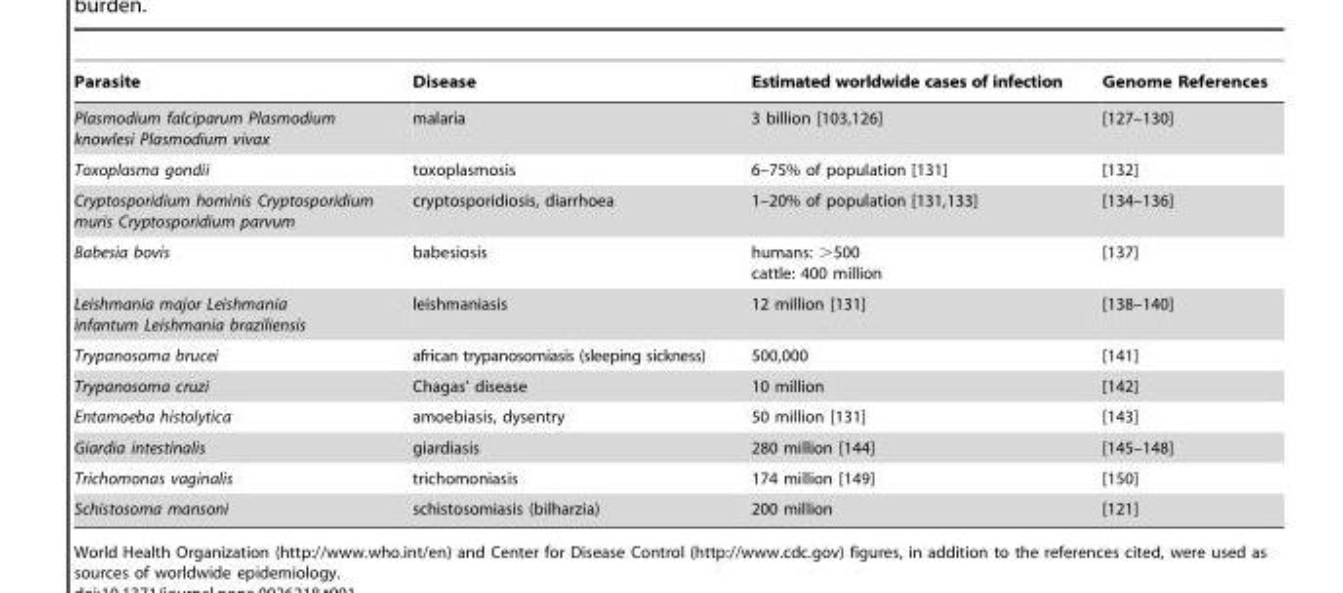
<table><thead><tr><td>Parasite</td><td>Disease</td><td>Estimated worldwide cases of infection</td><td>Genome References</td></tr></thead><tbody><tr><td>Plasmodium falciparum Plasmodium knowlesi Plasmodium vivax</td><td>malaria</td><td>3 billion [103,126]</td><td>[127–130]</td></tr><tr><td>Toxoplasma gondii</td><td>toxoplasmosis</td><td>6–75% of population [131]</td><td>[132]</td></tr><tr><td>Cryptosporidium hominis Cryptosporidium muris Cryptosporidium parvum</td><td>cryptosporidiosis, diarrhoea</td><td>1–20% of population [131,133]</td><td>[134–136]</td></tr><tr><td>Babesia bovis</td><td>babesiosis</td><td>humans: &gt;500 cattle: 400 million</td><td>[137]</td></tr><tr><td>Leishmania major Leishmania infantum Leishmania braziliensis</td><td>leishmaniasis</td><td>12 million [131]</td><td>[138–140]</td></tr><tr><td>Trypanosoma brucei</td><td>african trypanosomiasis (sleeping sickness)</td><td>500,000</td><td>[141]</td></tr><tr><td>Trypanosoma cruzi</td><td>Chagas’ disease</td><td>10 million</td><td>[142]</td></tr><tr><td>Entamoeba histolytica</td><td>amoebiasis, dysentry</td><td>50 million [131]</td><td>[143]</td></tr><tr><td>Giardia intestinalis</td><td>giardiasis</td><td>280 million [144]</td><td>[145–148]</td></tr><tr><td>Trichomonas vaginalis</td><td>trichomoniasis</td><td>174 million [149]</td><td>[150]</td></tr><tr><td>Schistosoma mansoni</td><td>schistosomiasis (bilharzia)</td><td>200 million</td><td>[121]</td></tr></tbody></table>